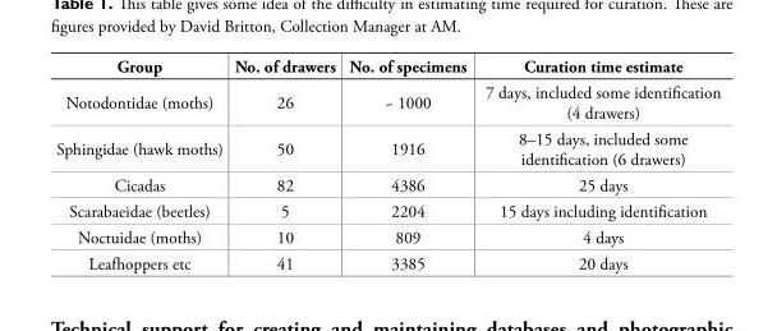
<table><thead><tr><td>Group</td><td>No. of drawers</td><td>No. of specimens</td><td>Curation time estimate</td></tr></thead><tbody><tr><td>Notodontidae (moths)</td><td>26</td><td>~ 1000</td><td>7 days, included some identification (4 drawers)</td></tr><tr><td>Sphingidae (hawk moths)</td><td>50</td><td>1916</td><td>8–15 days, included some identification (6 drawers)</td></tr><tr><td>Cicadas</td><td>82</td><td>4386</td><td>25 days</td></tr><tr><td>Scarabaeidae (beetles)</td><td>5</td><td>2204</td><td>15 days including identification</td></tr><tr><td>Noctuidae (moths)</td><td>10</td><td>809</td><td>4 days</td></tr><tr><td>Leafhoppers etc</td><td>41</td><td>3385</td><td>20 days</td></tr></tbody></table>